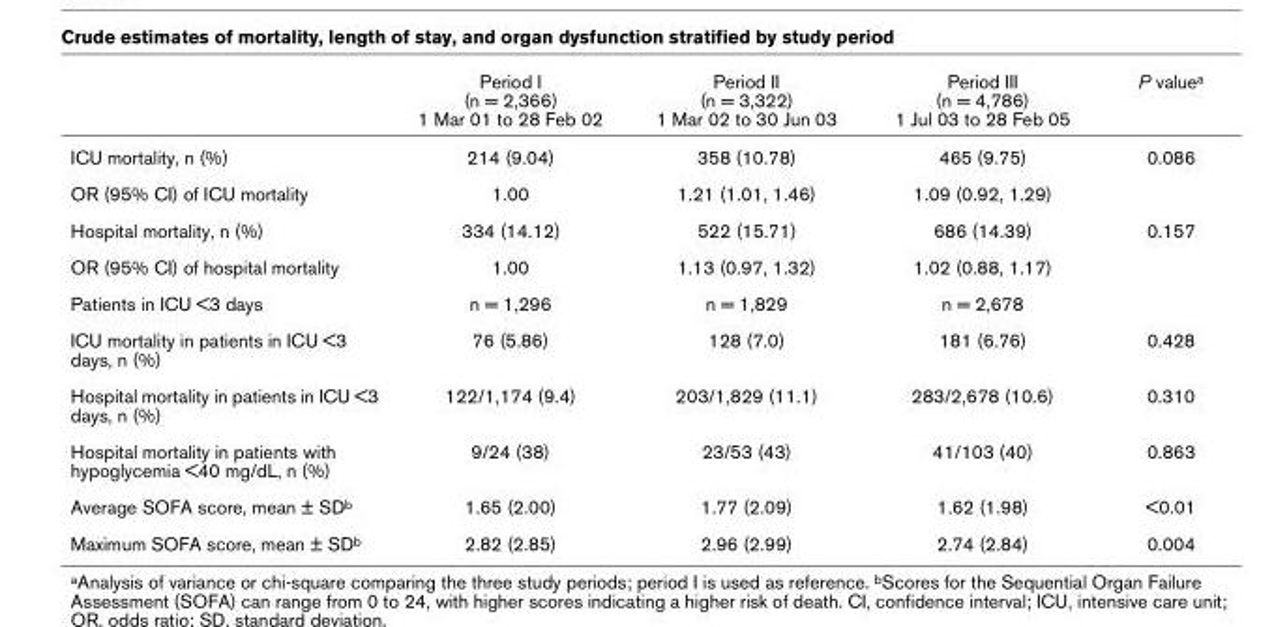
<table><thead><tr><td></td><td>Period I (n = 2,366) 1 Mar 01 to 28 Feb 02</td><td>Period II (n = 3,322) 1 Mar 02 to 30 Jun 03</td><td>Period III (n = 4,786) 1 Jul 03 to 28 Feb 05</td><td>P value<sup>a</sup></td></tr></thead><tbody><tr><td>ICU mortality, n (%)</td><td>214 (9.04)</td><td>358 (10.78)</td><td>465 (9.75)</td><td>0.086</td></tr><tr><td>OR (95% CI) of ICU mortality</td><td>1.00</td><td>1.21 (1.01, 1.46)</td><td>1.09 (0.92, 1.29)</td><td></td></tr><tr><td>Hospital mortality, n (%)</td><td>334 (14.12)</td><td>522 (15.71)</td><td>686 (14.39)</td><td>0.157</td></tr><tr><td>OR (95% CI) of hospital mortality</td><td>1.00</td><td>1.13 (0.97, 1.32)</td><td>1.02 (0.88, 1.17)</td><td></td></tr><tr><td>Patients in ICU &lt;3 days</td><td>n = 1,296</td><td>n = 1,829</td><td>n = 2,678</td><td></td></tr><tr><td>ICU mortality in patients in ICU &lt;3 days, n (%)</td><td>76 (5.86)</td><td>128 (7.0)</td><td>181 (6.76)</td><td>0.428</td></tr><tr><td>Hospital mortality in patients in ICU &lt;3 days, n (%)</td><td>122/1,174 (9.4)</td><td>203/1,829 (11.1)</td><td>283/2,678 (10.6)</td><td>0.310</td></tr><tr><td>Hospital mortality in patients with hypoglycemia &lt;40 mg/dL, n (%)</td><td>9/24 (38)</td><td>23/53 (43)</td><td>41/103 (40)</td><td>0.863</td></tr><tr><td>Average SOFA score, mean ± SD<sup>b</sup></td><td>1.65 (2.00)</td><td>1.77 (2.09)</td><td>1.62 (1.98)</td><td>&lt;0.01</td></tr><tr><td>Maximum SOFA score, mean ± SD<sup>b</sup></td><td>2.82 (2.85)</td><td>2.96 (2.99)</td><td>2.74 (2.84)</td><td>0.004</td></tr></tbody></table>